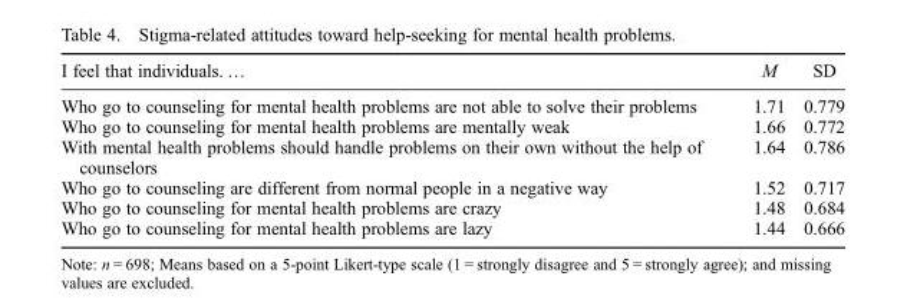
<table><thead><tr><td>I feel that individuals. …</td><td>M</td><td>SD</td></tr></thead><tbody><tr><td>Who go to counseling for mental health problems are not able to solve their problems</td><td>1.71</td><td>0.779</td></tr><tr><td>Who go to counseling for mental health problems are mentally weak</td><td>1.66</td><td>0.772</td></tr><tr><td>With mental health problems should handle problems on their own without the help of counselors</td><td>1.64</td><td>0.786</td></tr><tr><td>Who go to counseling are different from normal people in a negative way</td><td>1.52</td><td>0.717</td></tr><tr><td>Who go to counseling for mental health problems are crazy</td><td>1.48</td><td>0.684</td></tr><tr><td>Who go to counseling for mental health problems are lazy</td><td>1.44</td><td>0.666</td></tr></tbody></table>